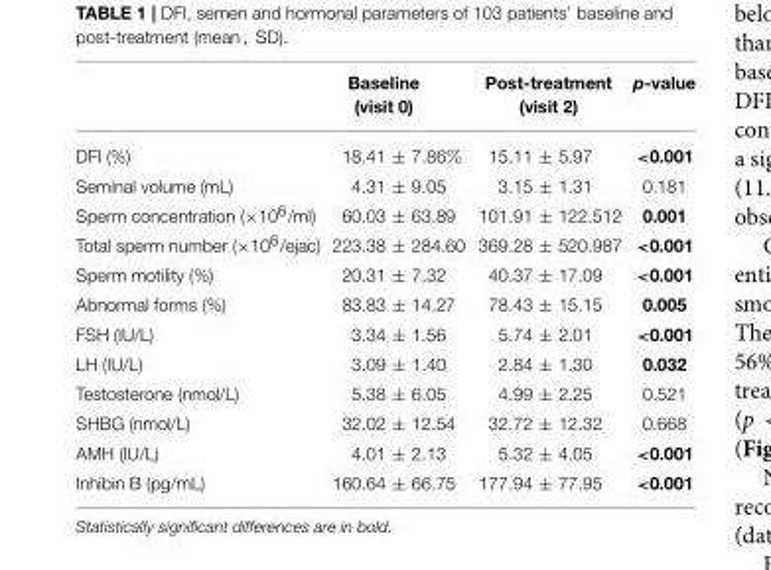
<table><thead><tr><td></td><td>Baseline (visit 0)</td><td>Post-treatment (visit 2)</td><td>p-value</td></tr></thead><tbody><tr><td>DFI (%)</td><td>18.41 ± 7.86%</td><td>15.11 ± 5.97</td><td>&lt;0.001</td></tr><tr><td>Seminal volume (mL)</td><td>4.31 ± 9.05</td><td>3.15 ± 1.31</td><td>0.181</td></tr><tr><td>Sperm concentration (×10<sup>6</sup>/ml)</td><td>60.03 ± 63.89</td><td>101.91 ± 122.512</td><td>0.001</td></tr><tr><td>Total sperm number (×10<sup>6</sup>/ejac)</td><td>223.38 ± 284.60</td><td>369.28 ± 520.987</td><td>&lt;0.001</td></tr><tr><td>Sperm motility (%)</td><td>20.31 ± 7.32</td><td>40.37 ± 17.09</td><td>&lt;0.001</td></tr><tr><td>Abnormal forms (%)</td><td>83.83 ± 14.27</td><td>78.43 ± 15.15</td><td>0.005</td></tr><tr><td>FSH (IU/L)</td><td>3.34 ± 1.56</td><td>5.74 ± 2.01</td><td>&lt;0.001</td></tr><tr><td>LH (IU/L)</td><td>3.09 ± 1.40</td><td>2.84 ± 1.30</td><td>0.032</td></tr><tr><td>Testosterone (nmol/L)</td><td>5.38 ± 6.05</td><td>4.99 ± 2.25</td><td>0.521</td></tr><tr><td>SHBG (nmol/L)</td><td>32.02 ± 12.54</td><td>32.72 ± 12.32</td><td>0.668</td></tr><tr><td>AMH (IU/L)</td><td>4.01 ± 2.13</td><td>5.32 ± 4.05</td><td>&lt;0.001</td></tr><tr><td>Inhibin B (pg/mL)</td><td>160.64 ± 66.75</td><td>177.94 ± 77.95</td><td>&lt;0.001</td></tr></tbody></table>